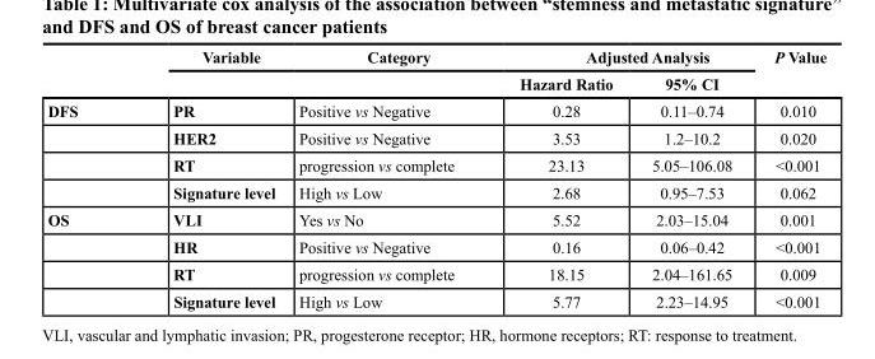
<table><thead><tr><td rowspan="2"></td><td rowspan="2">Variable</td><td rowspan="2">Category</td><td colspan="2">Adjusted Analysis</td><td rowspan="2">P Value</td></tr><tr><td>Hazard Ratio</td><td>95% CI</td></tr></thead><tbody><tr><td rowspan="4">DFS</td><td>PR</td><td>Positive vs Negative</td><td>0.28</td><td>0.11–0.74</td><td>0.010</td></tr><tr><td>HER2</td><td>Positive vs Negative</td><td>3.53</td><td>1.2–10.2</td><td>0.020</td></tr><tr><td>RT</td><td>progression vs complete</td><td>23.13</td><td>5.05–106.08</td><td>&lt;0.001</td></tr><tr><td>Signature level</td><td>High vs Low</td><td>2.68</td><td>0.95–7.53</td><td>0.062</td></tr><tr><td rowspan="4">OS</td><td>VLI</td><td>Yes vs No</td><td>5.52</td><td>2.03–15.04</td><td>0.001</td></tr><tr><td>HR</td><td>Positive vs Negative</td><td>0.16</td><td>0.06–0.42</td><td>&lt;0.001</td></tr><tr><td>RT</td><td>progression vs complete</td><td>18.15</td><td>2.04–161.65</td><td>0.009</td></tr><tr><td>Signature level</td><td>High vs Low</td><td>5.77</td><td>2.23–14.95</td><td>&lt;0.001</td></tr></tbody></table>